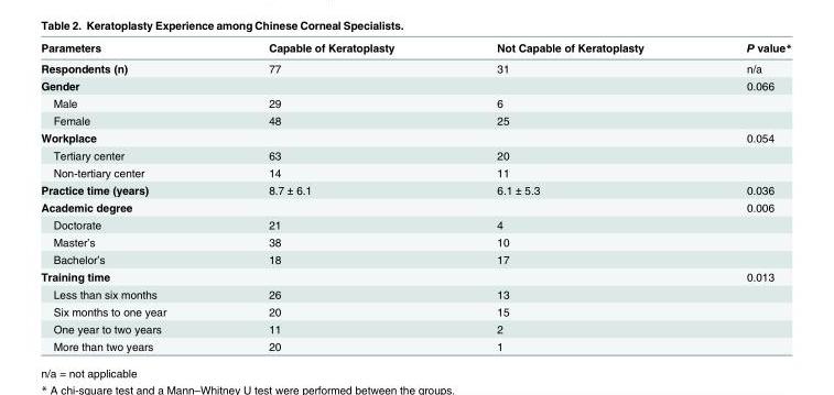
<table><thead><tr><td>Parameters</td><td>Capable of Keratoplasty</td><td>Not Capable of Keratoplasty</td><td>P value*</td></tr></thead><tbody><tr><td>Respondents (n)</td><td>77</td><td>31</td><td>n/a</td></tr><tr><td>Gender</td><td></td><td></td><td>0.066</td></tr><tr><td>Male</td><td>29</td><td>6</td><td></td></tr><tr><td>Female</td><td>48</td><td>25</td><td></td></tr><tr><td>Workplace</td><td></td><td></td><td>0.054</td></tr><tr><td>Tertiary center</td><td>63</td><td>20</td><td></td></tr><tr><td>Non-tertiary center</td><td>14</td><td>11</td><td></td></tr><tr><td>Practice time (years)</td><td>8.7 ± 6.1</td><td>6.1 ± 5.3</td><td>0.036</td></tr><tr><td>Academic degree</td><td></td><td></td><td>0.006</td></tr><tr><td>Doctorate</td><td>21</td><td>4</td><td></td></tr><tr><td>Master’s</td><td>38</td><td>10</td><td></td></tr><tr><td>Bachelor’s</td><td>18</td><td>17</td><td></td></tr><tr><td>Training time</td><td></td><td></td><td>0.013</td></tr><tr><td>Less than six months</td><td>26</td><td>13</td><td></td></tr><tr><td>Six months to one year</td><td>20</td><td>15</td><td></td></tr><tr><td>One year to two years</td><td>11</td><td>2</td><td></td></tr><tr><td>More than two years</td><td>20</td><td>1</td><td></td></tr></tbody></table>